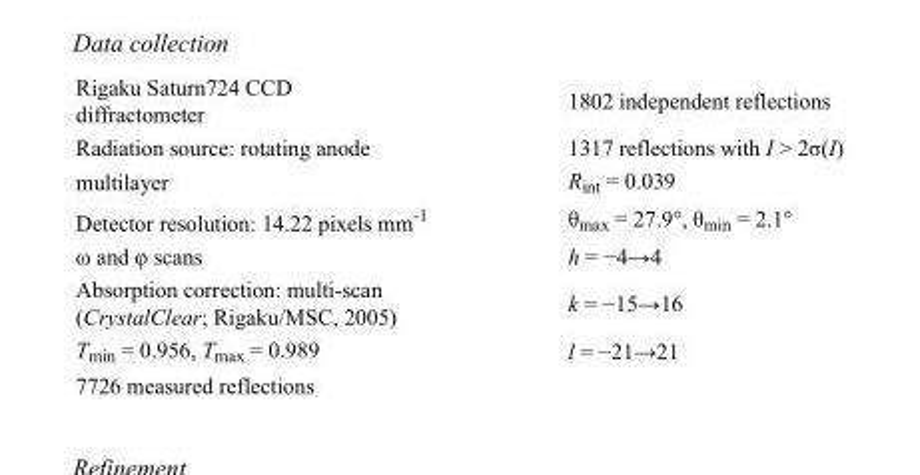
<table><tbody><tr><td>Rigaku Saturn724 CCD diffractometer</td><td>1802 independent reflections</td></tr><tr><td>Radiation source: rotating anode</td><td>1317 reflections with I &gt; 2σ(I)</td></tr><tr><td>multilayer</td><td>R<sub>int</sub> = 0.039</td></tr><tr><td>Detector resolution: 14.22 pixels mm<sup>-1</sup></td><td>θ<sub>max</sub> = 27.9°, θ<sub>min</sub> = 2.1°</td></tr><tr><td>ω and φ scans</td><td>h = −4→4</td></tr><tr><td>Absorption correction: multi-scan (CrystalClear; Rigaku/MSC, 2005)</td><td>k = −15→16</td></tr><tr><td>T<sub>min</sub> = 0.956, T<sub>max</sub> = 0.989</td><td>l = −21→21</td></tr><tr><td>7726 measured reflections</td><td></td></tr></tbody></table>